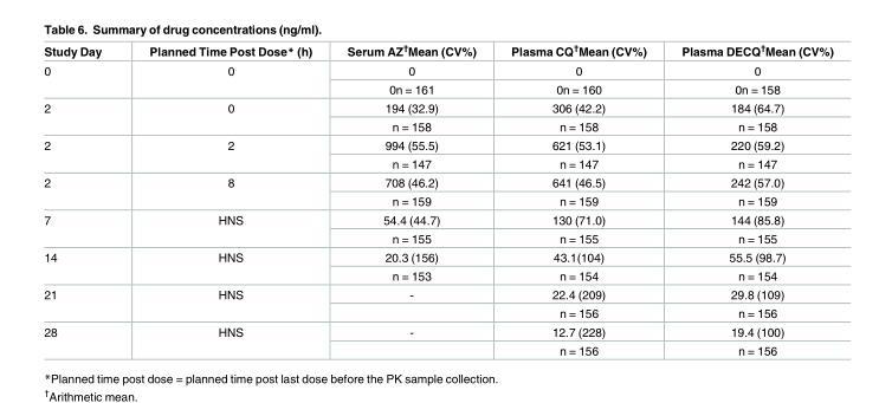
<table><thead><tr><td>Study Day</td><td>Planned Time Post Dose* (h)</td><td>Serum AZ<sup>†</sup>Mean (CV%)</td><td>Plasma CQ<sup>†</sup>Mean (CV%)</td><td>Plasma DECQ<sup>†</sup>Mean (CV%)</td></tr></thead><tbody><tr><td rowspan="2">0</td><td rowspan="2">0</td><td>0</td><td>0</td><td>0</td></tr><tr><td>0n = 161</td><td>0n = 160</td><td>0n = 158</td></tr><tr><td rowspan="2">2</td><td rowspan="2">0</td><td>194 (32.9)</td><td>306 (42.2)</td><td>184 (64.7)</td></tr><tr><td>n = 158</td><td>n = 158</td><td>n = 158</td></tr><tr><td rowspan="2">2</td><td rowspan="2">2</td><td>994 (55.5)</td><td>621 (53.1)</td><td>220 (59.2)</td></tr><tr><td>n = 147</td><td>n = 147</td><td>n = 147</td></tr><tr><td rowspan="2">2</td><td rowspan="2">8</td><td>708 (46.2)</td><td>641 (46.5)</td><td>242 (57.0)</td></tr><tr><td>n = 159</td><td>n = 159</td><td>n = 159</td></tr><tr><td rowspan="2">7</td><td rowspan="2">HNS</td><td>54.4 (44.7)</td><td>130 (71.0)</td><td>144 (85.8)</td></tr><tr><td>n = 155</td><td>n = 155</td><td>n = 155</td></tr><tr><td rowspan="2">14</td><td rowspan="2">HNS</td><td>20.3 (156)</td><td>43.1(104)</td><td>55.5 (98.7)</td></tr><tr><td>n = 153</td><td>n = 154</td><td>n = 154</td></tr><tr><td rowspan="2">21</td><td rowspan="2">HNS</td><td>-</td><td>22.4 (209)</td><td>29.8 (109)</td></tr><tr><td></td><td>n = 156</td><td>n = 156</td></tr><tr><td rowspan="2">28</td><td rowspan="2">HNS</td><td>-</td><td>12.7 (228)</td><td>19.4 (100)</td></tr><tr><td></td><td>n = 156</td><td>n = 156</td></tr></tbody></table>